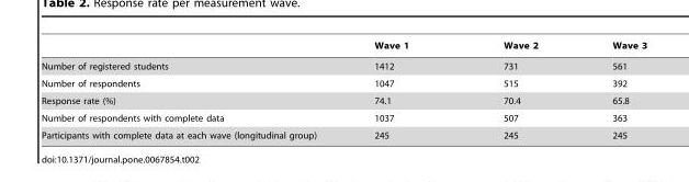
<table><thead><tr><td></td><td>Wave 1</td><td>Wave 2</td><td>Wave 3</td></tr></thead><tbody><tr><td>Number of registered students</td><td>1412</td><td>731</td><td>561</td></tr><tr><td>Number of respondents</td><td>1047</td><td>515</td><td>392</td></tr><tr><td>Response rate (%)</td><td>74.1</td><td>70.4</td><td>65.8</td></tr><tr><td>Number of respondents with complete data</td><td>1037</td><td>507</td><td>363</td></tr><tr><td>Participants with complete data at each wave (longitudinal group)</td><td>245</td><td>245</td><td>245</td></tr></tbody></table>